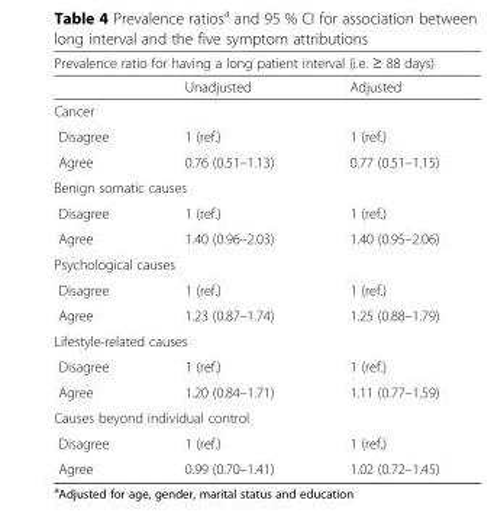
<table><thead><tr><td colspan="3">Prevalence ratio for having a long patient interval (i.e. ≥ 88 days)</td></tr><tr><td></td><td>Unadjusted</td><td>Adjusted</td></tr></thead><tbody><tr><td colspan="3">Cancer</td></tr><tr><td>Disagree</td><td>1 (ref.)</td><td>1 (ref.)</td></tr><tr><td>Agree</td><td>0.76 (0.51–1.13)</td><td>0.77 (0.51–1.15)</td></tr><tr><td colspan="3">Benign somatic causes</td></tr><tr><td>Disagree</td><td>1 (ref.)</td><td>1 (ref.)</td></tr><tr><td>Agree</td><td>1.40 (0.96–2.03)</td><td>1.40 (0.95–2.06)</td></tr><tr><td colspan="3">Psychological causes</td></tr><tr><td>Disagree</td><td>1 (ref.)</td><td>1 (ref.)</td></tr><tr><td>Agree</td><td>1.23 (0.87–1.74)</td><td>1.25 (0.88–1.79)</td></tr><tr><td colspan="3">Lifestyle-related causes</td></tr><tr><td>Disagree</td><td>1 (ref.)</td><td>1 (ref.)</td></tr><tr><td>Agree</td><td>1.20 (0.84–1.71)</td><td>1.11 (0.77–1.59)</td></tr><tr><td colspan="3">Causes beyond individual control</td></tr><tr><td>Disagree</td><td>1 (ref.)</td><td>1 (ref.)</td></tr><tr><td>Agree</td><td>0.99 (0.70–1.41)</td><td>1.02 (0.72–1.45)</td></tr></tbody></table>